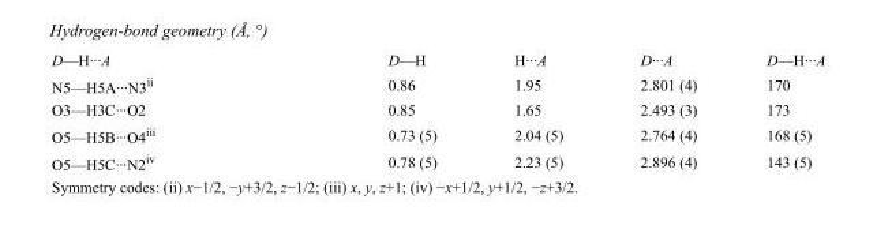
<table><tbody><tr><td>D—H···A</td><td>D—H</td><td>H···A</td><td>D···A</td><td>D—H···A</td></tr><tr><td>N5—H5A···N3<sup>ii</sup></td><td>0.86</td><td>1.95</td><td>2.801 (4)</td><td>170</td></tr><tr><td>O3—H3C···O2</td><td>0.85</td><td>1.65</td><td>2.493 (3)</td><td>173</td></tr><tr><td>O5—H5B···O4<sup>iii</sup></td><td>0.73 (5)</td><td>2.04 (5)</td><td>2.764 (4)</td><td>168 (5)</td></tr><tr><td>O5—H5C···N2<sup>iv</sup></td><td>0.78 (5)</td><td>2.23 (5)</td><td>2.896 (4)</td><td>143 (5)</td></tr></tbody></table>